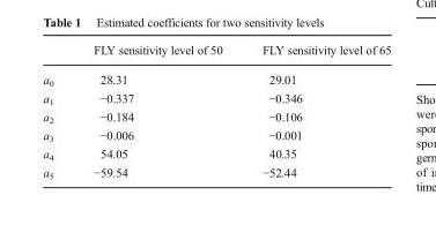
<table><thead><tr><td></td><td>FLY sensitivity level of 50</td><td>FLY sensitivity level of 65</td></tr></thead><tbody><tr><td>a<sub>0</sub></td><td>28.31</td><td>29.01</td></tr><tr><td>a<sub>1</sub></td><td>−0.337</td><td>−0.346</td></tr><tr><td>a<sub>2</sub></td><td>−0.184</td><td>−0.106</td></tr><tr><td>a<sub>3</sub></td><td>−0.006</td><td>−0.001</td></tr><tr><td>a<sub>4</sub></td><td>54.05</td><td>40.35</td></tr><tr><td>a<sub>5</sub></td><td>−59.54</td><td>−52.44</td></tr></tbody></table>